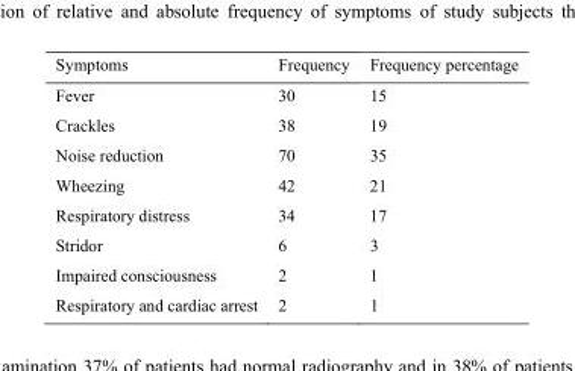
<table><thead><tr><td>Symptoms</td><td>Frequency</td><td>Frequency percentage</td></tr></thead><tbody><tr><td>Fever</td><td>30</td><td>15</td></tr><tr><td>Crackles</td><td>38</td><td>19</td></tr><tr><td>Noise reduction</td><td>70</td><td>35</td></tr><tr><td>Wheezing</td><td>42</td><td>21</td></tr><tr><td>Respiratory distress</td><td>34</td><td>17</td></tr><tr><td>Stridor</td><td>6</td><td>3</td></tr><tr><td>Impaired consciousness</td><td>2</td><td>1</td></tr><tr><td>Respiratory and cardiac arrest</td><td>2</td><td>1</td></tr></tbody></table>